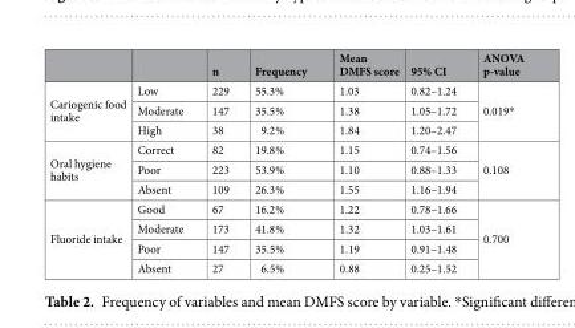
<table><thead><tr><td></td><td></td><td>n</td><td>Frequency</td><td>Mean DMFS score</td><td>95% CI</td><td>ANOVA p-value</td></tr></thead><tbody><tr><td rowspan="3">Cariogenic food intake</td><td>Low</td><td>229</td><td>55.3%</td><td>1.03</td><td>0.82–1.24</td><td rowspan="3">0.019*</td></tr><tr><td>Moderate</td><td>147</td><td>35.5%</td><td>1.38</td><td>1.05–1.72</td></tr><tr><td>High</td><td>38</td><td>9.2%</td><td>1.84</td><td>1.20–2.47</td></tr><tr><td rowspan="3">Oral hygiene habits</td><td>Correct</td><td>82</td><td>19.8%</td><td>1.15</td><td>0.74–1.56</td><td rowspan="3">0.108</td></tr><tr><td>Poor</td><td>223</td><td>53.9%</td><td>1.10</td><td>0.88–1.33</td></tr><tr><td>Absent</td><td>109</td><td>26.3%</td><td>1.55</td><td>1.16–1.94</td></tr><tr><td rowspan="4">Fluoride intake</td><td>Good</td><td>67</td><td>16.2%</td><td>1.22</td><td>0.78–1.66</td><td rowspan="4">0.700</td></tr><tr><td>Moderate</td><td>173</td><td>41.8%</td><td>1.32</td><td>1.03–1.61</td></tr><tr><td>Poor</td><td>147</td><td>35.5%</td><td>1.19</td><td>0.91–1.48</td></tr><tr><td>Absent</td><td>27</td><td>6.5%</td><td>0.88</td><td>0.25–1.52</td></tr></tbody></table>